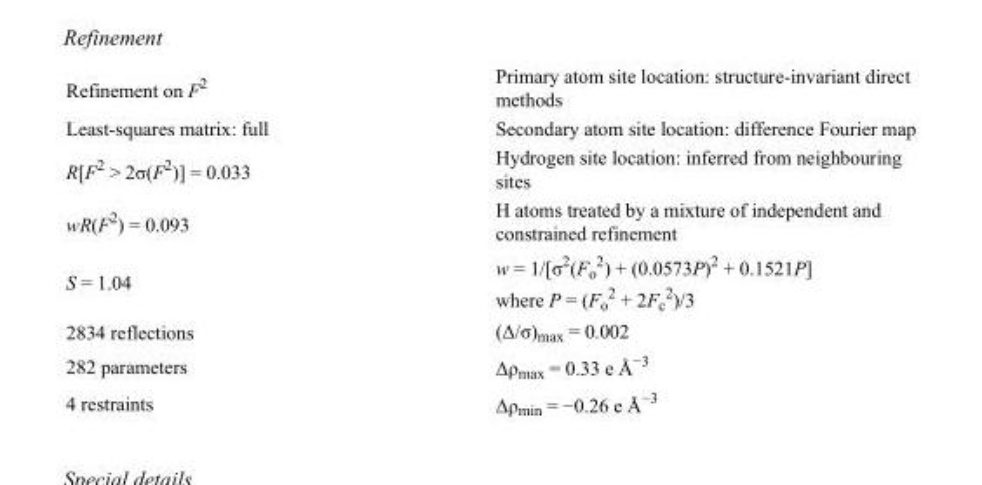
<table><tbody><tr><td>Refinement on F<sup>2</sup></td><td>Primary atom site location: structure-invariant direct methods</td></tr><tr><td>Least-squares matrix: full</td><td>Secondary atom site location: difference Fourier map</td></tr><tr><td>R[F<sup>2</sup> &gt; 2σ(F<sup>2</sup>)] = 0.033</td><td>Hydrogen site location: inferred from neighbouring sites</td></tr><tr><td>wR(F<sup>2</sup>) = 0.093</td><td>H atoms treated by a mixture of independent and constrained refinement</td></tr><tr><td>S = 1.04</td><td>w = 1/[σ<sup>2</sup>(F<sub>o</sub> <sup>2</sup>) + (0.0573P)<sup>2</sup> + 0.1521P] where P = (F<sub>o</sub> <sup>2</sup> + 2F<sub>c</sub> <sup>2</sup>)/3</td></tr><tr><td>2834 reflections</td><td>(Δ/σ)<sub>max</sub> = 0.002</td></tr><tr><td>282 parameters</td><td>Δρ<sub>max</sub> = 0.33 e Å<sup>−3</sup></td></tr><tr><td>4 restraints</td><td>Δρ<sub>min</sub> = −0.26 e Å<sup>−3</sup></td></tr></tbody></table>